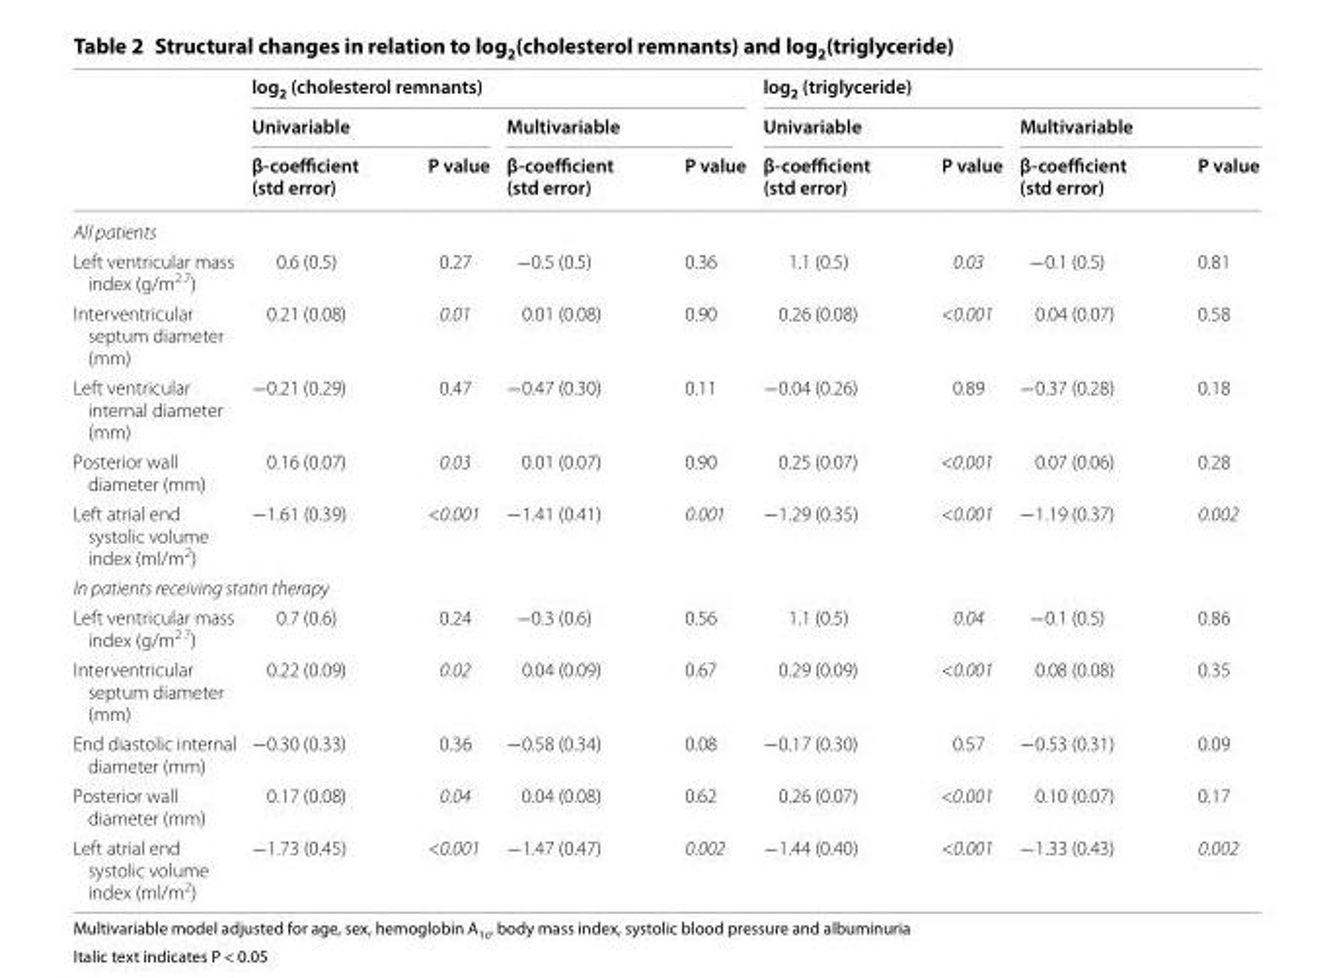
<table><thead><tr><td rowspan="3"></td><td colspan="4">log<sub>2</sub> (cholesterol remnants)</td><td colspan="4">log<sub>2</sub> (triglyceride)</td></tr><tr><td colspan="2">Univariable</td><td colspan="2">Multivariable</td><td colspan="2">Univariable</td><td colspan="2">Multivariable</td></tr><tr><td>β-coefficient (std error)</td><td>P value</td><td>β-coefficient (std error)</td><td>P value</td><td>β-coefficient (std error)</td><td>P value</td><td>β-coefficient (std error)</td><td>P value</td></tr></thead><tbody><tr><td colspan="9">All patients</td></tr><tr><td>Left ventricular mass index (g/m<sup>2.7</sup>)</td><td>0.6 (0.5)</td><td>0.27</td><td>−0.5 (0.5)</td><td>0.36</td><td>1.1 (0.5)</td><td>0.03</td><td>−0.1 (0.5)</td><td>0.81</td></tr><tr><td>Interventricular septum diameter (mm)</td><td>0.21 (0.08)</td><td>0.01</td><td>0.01 (0.08)</td><td>0.90</td><td>0.26 (0.08)</td><td>&lt;0.001</td><td>0.04 (0.07)</td><td>0.58</td></tr><tr><td>Left ventricular internal diameter (mm)</td><td>−0.21 (0.29)</td><td>0.47</td><td>−0.47 (0.30)</td><td>0.11</td><td>−0.04 (0.26)</td><td>0.89</td><td>−0.37 (0.28)</td><td>0.18</td></tr><tr><td>Posterior wall diameter (mm)</td><td>0.16 (0.07)</td><td>0.03</td><td>0.01 (0.07)</td><td>0.90</td><td>0.25 (0.07)</td><td>&lt;0.001</td><td>0.07 (0.06)</td><td>0.28</td></tr><tr><td>Left atrial end systolic volume index (ml/m<sup>2</sup>)</td><td>−1.61 (0.39)</td><td>&lt;0.001</td><td>−1.41 (0.41)</td><td>0.001</td><td>−1.29 (0.35)</td><td>&lt;0.001</td><td>−1.19 (0.37)</td><td>0.002</td></tr><tr><td colspan="9">In patients receiving statin therapy</td></tr><tr><td>Left ventricular mass index (g/m<sup>2.7</sup>)</td><td>0.7 (0.6)</td><td>0.24</td><td>−0.3 (0.6)</td><td>0.56</td><td>1.1 (0.5)</td><td>0.04</td><td>−0.1 (0.5)</td><td>0.86</td></tr><tr><td>Interventricular septum diameter (mm)</td><td>0.22 (0.09)</td><td>0.02</td><td>0.04 (0.09)</td><td>0.67</td><td>0.29 (0.09)</td><td>&lt;0.001</td><td>0.08 (0.08)</td><td>0.35</td></tr><tr><td>End diastolic internal diameter (mm)</td><td>−0.30 (0.33)</td><td>0.36</td><td>−0.58 (0.34)</td><td>0.08</td><td>−0.17 (0.30)</td><td>0.57</td><td>−0.53 (0.31)</td><td>0.09</td></tr><tr><td>Posterior wall diameter (mm)</td><td>0.17 (0.08)</td><td>0.04</td><td>0.04 (0.08)</td><td>0.62</td><td>0.26 (0.07)</td><td>&lt;0.001</td><td>0.10 (0.07)</td><td>0.17</td></tr><tr><td>Left atrial end systolic volume index (ml/m<sup>2</sup>)</td><td>−1.73 (0.45)</td><td>&lt;0.001</td><td>−1.47 (0.47)</td><td>0.002</td><td>−1.44 (0.40)</td><td>&lt;0.001</td><td>−1.33 (0.43)</td><td>0.002</td></tr></tbody></table>